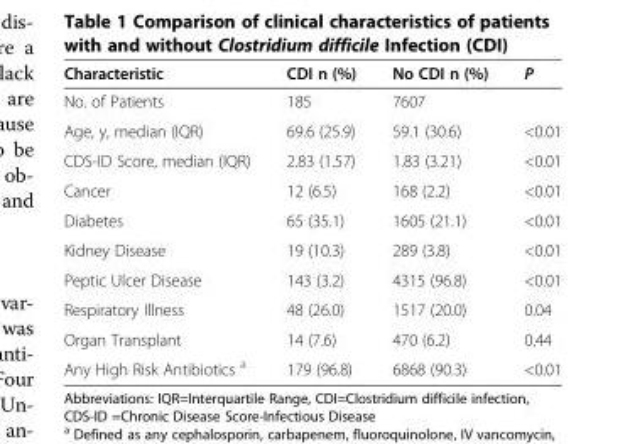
<table><thead><tr><td>Characteristic</td><td>CDI n (%)</td><td>No CDI n (%)</td><td>P</td></tr></thead><tbody><tr><td>No. of Patients</td><td>185</td><td>7607</td><td></td></tr><tr><td>Age, y, median (IQR)</td><td>69.6 (25.9)</td><td>59.1 (30.6)</td><td>&lt;0.01</td></tr><tr><td>CDS-ID Score, median (IQR)</td><td>2.83 (1.57)</td><td>1.83 (3.21)</td><td>&lt;0.01</td></tr><tr><td>Cancer</td><td>12 (6.5)</td><td>168 (2.2)</td><td>&lt;0.01</td></tr><tr><td>Diabetes</td><td>65 (35.1)</td><td>1605 (21.1)</td><td>&lt;0.01</td></tr><tr><td>Kidney Disease</td><td>19 (10.3)</td><td>289 (3.8)</td><td>&lt;0.01</td></tr><tr><td>Peptic Ulcer Disease</td><td>143 (3.2)</td><td>4315 (96.8)</td><td>&lt;0.01</td></tr><tr><td>Respiratory Illness</td><td>48 (26.0)</td><td>1517 (20.0)</td><td>0.04</td></tr><tr><td>Organ Transplant</td><td>14 (7.6)</td><td>470 (6.2)</td><td>0.44</td></tr><tr><td>Any High Risk Antibiotics <sup>a</sup></td><td>179 (96.8)</td><td>6868 (90.3)</td><td>&lt;0.01</td></tr></tbody></table>